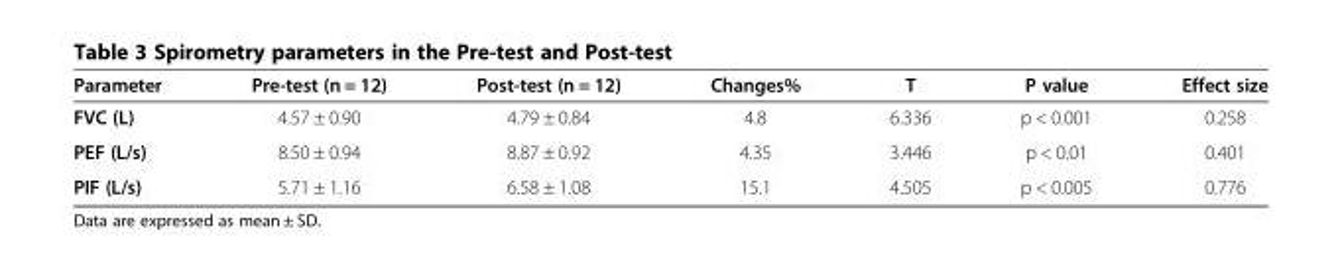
<table><thead><tr><td>Parameter</td><td>Pre-test (n = 12)</td><td>Post-test (n = 12)</td><td>Changes%</td><td>T</td><td>P value</td><td>Effect size</td></tr></thead><tbody><tr><td>FVC (L)</td><td>4.57 ± 0.90</td><td>4.79 ± 0.84</td><td>4.8</td><td>6.336</td><td>p &lt; 0.001</td><td>0.258</td></tr><tr><td>PEF (L/s)</td><td>8.50 ± 0.94</td><td>8.87 ± 0.92</td><td>4.35</td><td>3.446</td><td>p &lt; 0.01</td><td>0.401</td></tr><tr><td>PIF (L/s)</td><td>5.71 ± 1.16</td><td>6.58 ± 1.08</td><td>15.1</td><td>4.505</td><td>p &lt; 0.005</td><td>0.776</td></tr></tbody></table>